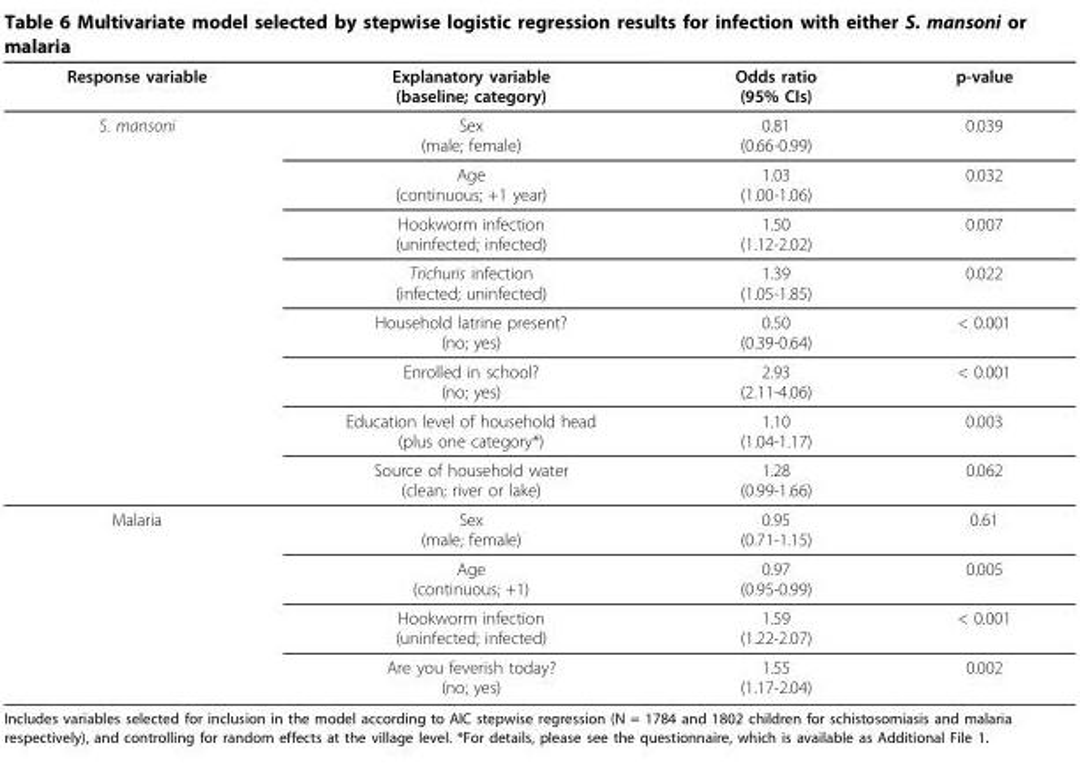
<table><thead><tr><td>Response variable</td><td>Explanatory variable (baseline; category)</td><td>Odds ratio (95% CIs)</td><td>p-value</td></tr></thead><tbody><tr><td rowspan="8">S. mansoni</td><td>Sex (male; female)</td><td>0.81 (0.66-0.99)</td><td>0.039</td></tr><tr><td>Age (continuous; +1 year)</td><td>1.03 (1.00-1.06)</td><td>0.032</td></tr><tr><td>Hookworm infection (uninfected; infected)</td><td>1.50 (1.12-2.02)</td><td>0.007</td></tr><tr><td>Trichuris infection (infected; uninfected)</td><td>1.39 (1.05-1.85)</td><td>0.022</td></tr><tr><td>Household latrine present? (no; yes)</td><td>0.50 (0.39-0.64)</td><td>&lt; 0.001</td></tr><tr><td>Enrolled in school? (no; yes)</td><td>2.93 (2.11-4.06)</td><td>&lt; 0.001</td></tr><tr><td>Education level of household head (plus one category*)</td><td>1.10 (1.04-1.17)</td><td>0.003</td></tr><tr><td>Source of household water (clean; river or lake)</td><td>1.28 (0.99-1.66)</td><td>0.062</td></tr><tr><td rowspan="4">Malaria</td><td>Sex (male; female)</td><td>0.95 (0.71-1.15)</td><td>0.61</td></tr><tr><td>Age (continuous; +1)</td><td>0.97 (0.95-0.99)</td><td>0.005</td></tr><tr><td>Hookworm infection (uninfected; infected)</td><td>1.59 (1.22-2.07)</td><td>&lt; 0.001</td></tr><tr><td>Are you feverish today? (no; yes)</td><td>1.55 (1.17-2.04)</td><td>0.002</td></tr></tbody></table>